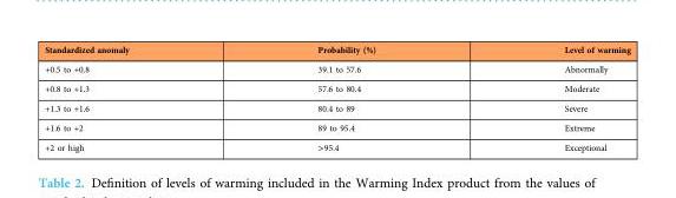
<table><thead><tr><td>Standardized anomaly</td><td>Probability (%)</td><td>Level of warming</td></tr></thead><tbody><tr><td>+0.5 to +0.8</td><td>39.1 to 57.6</td><td>Abnormally</td></tr><tr><td>+0.8 to +1.3</td><td>57.6 to 80.4</td><td>Moderate</td></tr><tr><td>+1.3 to +1.6</td><td>80.4 to 89</td><td>Severe</td></tr><tr><td>+1.6 to +2</td><td>89 to 95.4</td><td>Extreme</td></tr><tr><td>+2 or high</td><td>&gt;95.4</td><td>Exceptional</td></tr></tbody></table>